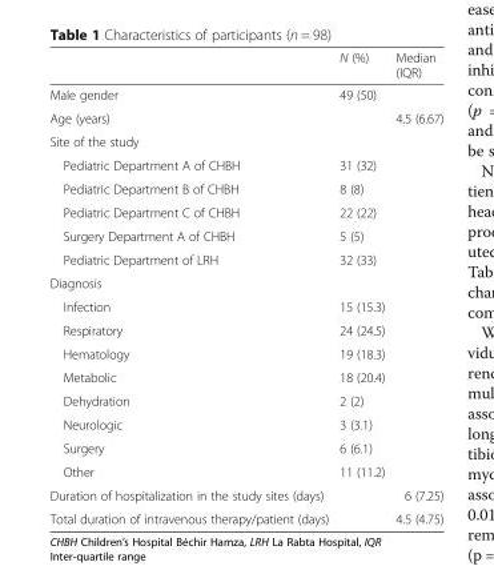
<table><thead><tr><td></td><td>N (%)</td><td>Median (IQR)</td></tr></thead><tbody><tr><td>Male gender</td><td>49 (50)</td><td></td></tr><tr><td>Age (years)</td><td></td><td>4.5 (6.67)</td></tr><tr><td colspan="3">Site of the study</td></tr><tr><td>Pediatric Department A of CHBH</td><td>31 (32)</td><td></td></tr><tr><td>Pediatric Department B of CHBH</td><td>8 (8)</td><td></td></tr><tr><td>Pediatric Department C of CHBH</td><td>22 (22)</td><td></td></tr><tr><td>Surgery Department A of CHBH</td><td>5 (5)</td><td></td></tr><tr><td>Pediatric Department of LRH</td><td>32 (33)</td><td></td></tr><tr><td colspan="3">Diagnosis</td></tr><tr><td>Infection</td><td>15 (15.3)</td><td></td></tr><tr><td>Respiratory</td><td>24 (24.5)</td><td></td></tr><tr><td>Hematology</td><td>19 (18.3)</td><td></td></tr><tr><td>Metabolic</td><td>18 (20.4)</td><td></td></tr><tr><td>Dehydration</td><td>2 (2)</td><td></td></tr><tr><td>Neurologic</td><td>3 (3.1)</td><td></td></tr><tr><td>Surgery</td><td>6 (6.1)</td><td></td></tr><tr><td>Other</td><td>11 (11.2)</td><td></td></tr><tr><td>Duration of hospitalization in the study sites (days)</td><td></td><td>6 (7.25)</td></tr><tr><td>Total duration of intravenous therapy/patient (days)</td><td></td><td>4.5 (4.75)</td></tr></tbody></table>